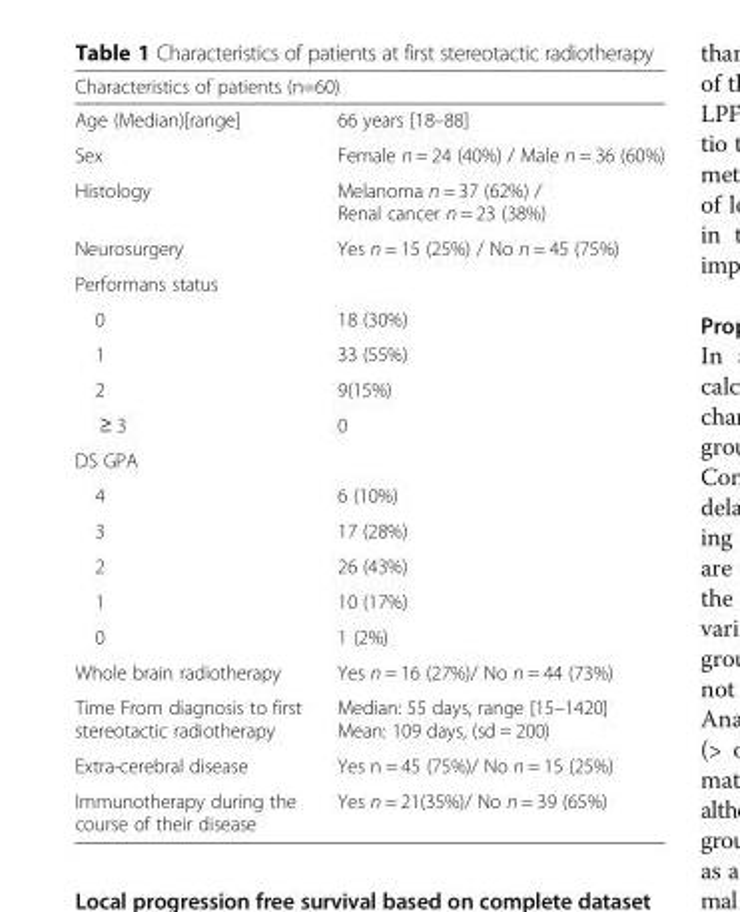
<table><thead><tr><td colspan="2">Characteristics of patients (n=60)</td></tr><tr><td>Age (Median)[range]</td><td>66 years [18–88]</td></tr></thead><tbody><tr><td>Sex</td><td>Female n = 24 (40%) / Male n = 36 (60%)</td></tr><tr><td>Histology</td><td>Melanoma n = 37 (62%) / Renal cancer n = 23 (38%)</td></tr><tr><td>Neurosurgery</td><td>Yes n = 15 (25%) / No n = 45 (75%)</td></tr><tr><td colspan="2">Performans status</td></tr><tr><td>0</td><td>18 (30%)</td></tr><tr><td>1</td><td>33 (55%)</td></tr><tr><td>2</td><td>9(15%)</td></tr><tr><td>≥ 3</td><td>0</td></tr><tr><td colspan="2">DS GPA</td></tr><tr><td>4</td><td>6 (10%)</td></tr><tr><td>3</td><td>17 (28%)</td></tr><tr><td>2</td><td>26 (43%)</td></tr><tr><td>1</td><td>10 (17%)</td></tr><tr><td>0</td><td>1 (2%)</td></tr><tr><td>Whole brain radiotherapy</td><td>Yes n = 16 (27%)/ No n = 44 (73%)</td></tr><tr><td>Time From diagnosis to first stereotactic radiotherapy</td><td>Median: 55 days, range [15–1420] Mean: 109 days, (sd = 200)</td></tr><tr><td>Extra-cerebral disease</td><td>Yes n = 45 (75%)/ No n = 15 (25%)</td></tr><tr><td>Immunotherapy during the course of their disease</td><td>Yes n = 21(35%)/ No n = 39 (65%)</td></tr></tbody></table>